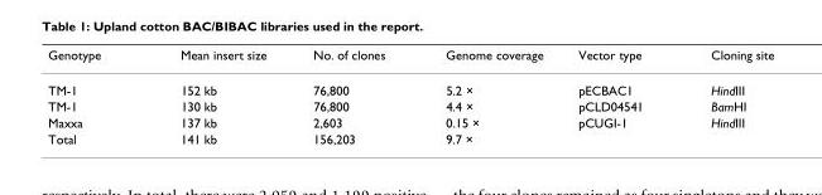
<table><thead><tr><td>Genotype</td><td>Mean insert size</td><td>No. of clones</td><td>Genome coverage</td><td>Vector type</td><td>Cloning site</td></tr></thead><tbody><tr><td>TM-1</td><td>152 kb</td><td>76,800</td><td>5.2 ×</td><td>pECBAC1</td><td>HindIII</td></tr><tr><td>TM-1</td><td>130 kb</td><td>76,800</td><td>4.4 ×</td><td>pCLD04541</td><td>BamHI</td></tr><tr><td>Maxxa</td><td>137 kb</td><td>2,603</td><td>0.15 ×</td><td>pCUGI-1</td><td>HindIII</td></tr><tr><td>Total</td><td>141 kb</td><td>156,203</td><td>9.7 ×</td><td></td><td></td></tr></tbody></table>